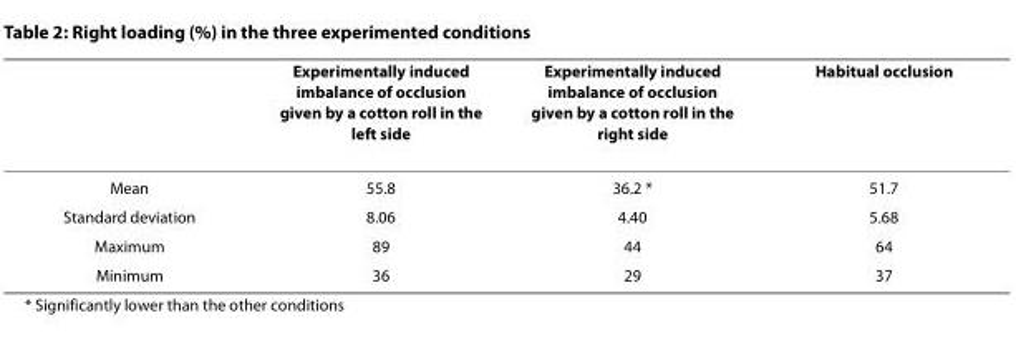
<table><thead><tr><td></td><td>Experimentally induced imbalance of occlusion given by a cotton roll in the left side</td><td>Experimentally induced imbalance of occlusion given by a cotton roll in the right side</td><td>Habitual occlusion</td></tr></thead><tbody><tr><td>Mean</td><td>55.8</td><td>36.2 *</td><td>51.7</td></tr><tr><td>Standard deviation</td><td>8.06</td><td>4.40</td><td>5.68</td></tr><tr><td>Maximum</td><td>89</td><td>44</td><td>64</td></tr><tr><td>Minimum</td><td>36</td><td>29</td><td>37</td></tr></tbody></table>